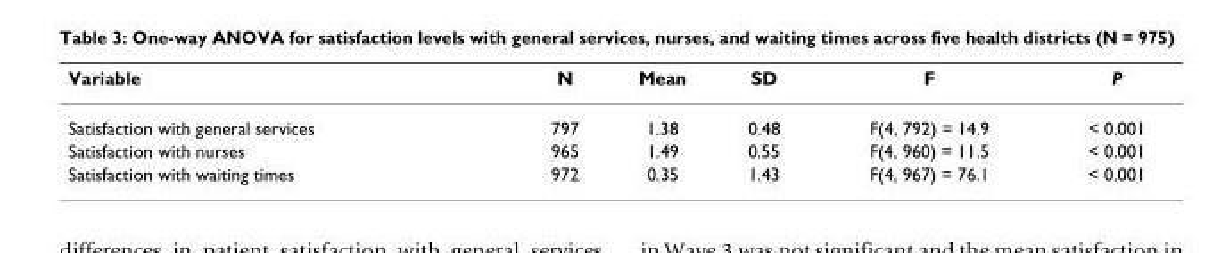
<table><thead><tr><td>Variable</td><td>N</td><td>Mean</td><td>SD</td><td>F</td><td>P</td></tr></thead><tbody><tr><td>Satisfaction with general services</td><td>797</td><td>1.38</td><td>0.48</td><td>F(4, 792) = 14.9</td><td>&lt; 0.001</td></tr><tr><td>Satisfaction with nurses</td><td>965</td><td>1.49</td><td>0.55</td><td>F(4, 960) = 11.5</td><td>&lt; 0.001</td></tr><tr><td>Satisfaction with waiting times</td><td>972</td><td>0.35</td><td>1.43</td><td>F(4, 967) = 76.1</td><td>&lt; 0.001</td></tr></tbody></table>